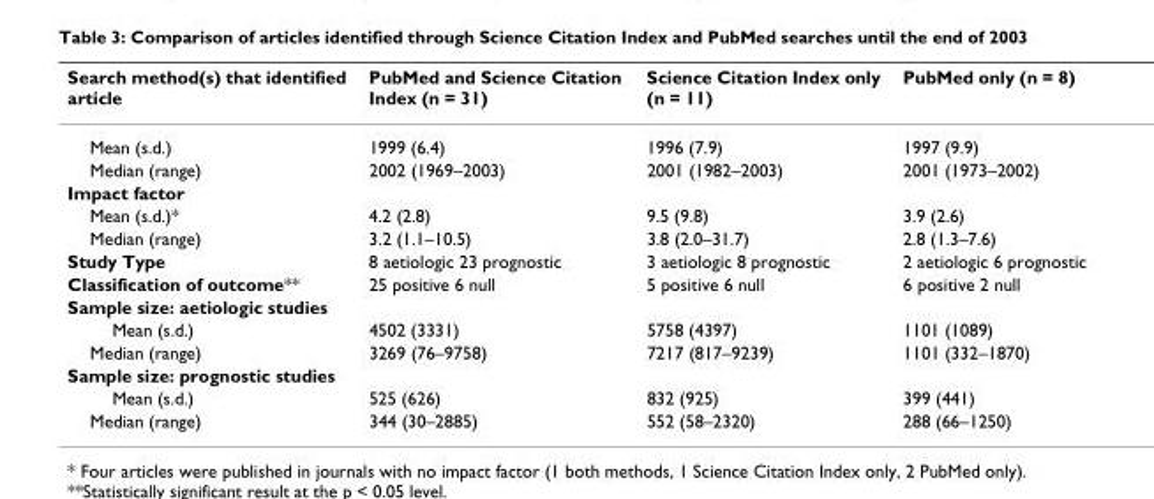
<table><thead><tr><td>Search method(s) that identified article</td><td>PubMed and Science Citation Index (n = 31)</td><td>Science Citation Index only (n = 11)</td><td>PubMed only (n = 8)</td></tr></thead><tbody><tr><td>Mean (s.d.)</td><td>1999 (6.4)</td><td>1996 (7.9)</td><td>1997 (9.9)</td></tr><tr><td>Median (range)</td><td>2002 (1969–2003)</td><td>2001 (1982–2003)</td><td>2001 (1973–2002)</td></tr><tr><td colspan="4">Impact factor</td></tr><tr><td>Mean (s.d.)*</td><td>4.2 (2.8)</td><td>9.5 (9.8)</td><td>3.9 (2.6)</td></tr><tr><td>Median (range)</td><td>3.2 (1.1–10.5)</td><td>3.8 (2.0–31.7)</td><td>2.8 (1.3–7.6)</td></tr><tr><td>Study Type</td><td>8 aetiologic 23 prognostic</td><td>3 aetiologic 8 prognostic</td><td>2 aetiologic 6 prognostic</td></tr><tr><td>Classification of outcome**</td><td>25 positive 6 null</td><td>5 positive 6 null</td><td>6 positive 2 null</td></tr><tr><td colspan="4">Sample size: aetiologic studies</td></tr><tr><td>Mean (s.d.)</td><td>4502 (3331)</td><td>5758 (4397)</td><td>1101 (1089)</td></tr><tr><td>Median (range)</td><td>3269 (76–9758)</td><td>7217 (817–9239)</td><td>1101 (332–1870)</td></tr><tr><td colspan="4">Sample size: prognostic studies</td></tr><tr><td>Mean (s.d.)</td><td>525 (626)</td><td>832 (925)</td><td>399 (441)</td></tr><tr><td>Median (range)</td><td>344 (30–2885)</td><td>552 (58–2320)</td><td>288 (66–1250)</td></tr></tbody></table>